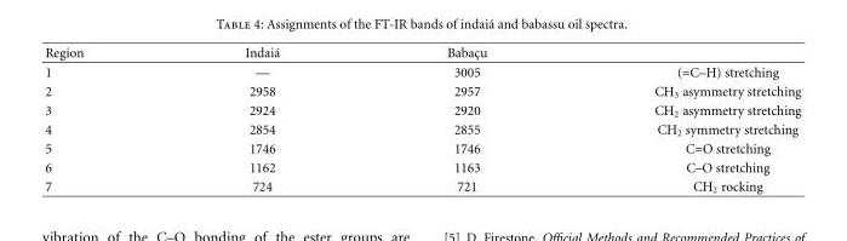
<table><thead><tr><td>Region</td><td>Indai´a</td><td>Babac¸u</td><td></td></tr></thead><tbody><tr><td>1</td><td>—</td><td>3005</td><td>(=C–H) stretching</td></tr><tr><td>2</td><td>2958</td><td>2957</td><td>CH<sub>3</sub> asymmetry stretching</td></tr><tr><td>3</td><td>2924</td><td>2920</td><td>CH<sub>2</sub> asymmetry stretching</td></tr><tr><td>4</td><td>2854</td><td>2855</td><td>CH<sub>2</sub> symmetry stretching</td></tr><tr><td>5</td><td>1746</td><td>1746</td><td>C=O stretching</td></tr><tr><td>6</td><td>1162</td><td>1163</td><td>C–O stretching</td></tr><tr><td>7</td><td>724</td><td>721</td><td>CH<sub>2</sub> rocking</td></tr></tbody></table>